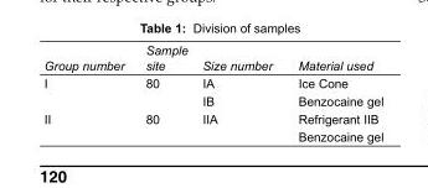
<table><tbody><tr><td>Group number</td><td>Sample site</td><td>Size number</td><td>Material used</td></tr><tr><td rowspan="2">I</td><td>80</td><td>IA</td><td>Ice Cone</td></tr><tr><td></td><td>IB</td><td>Benzocaine gel</td></tr><tr><td rowspan="2">II</td><td>80</td><td>IIA</td><td>Refrigerant IIB</td></tr><tr><td></td><td></td><td>Benzocaine gel</td></tr></tbody></table>